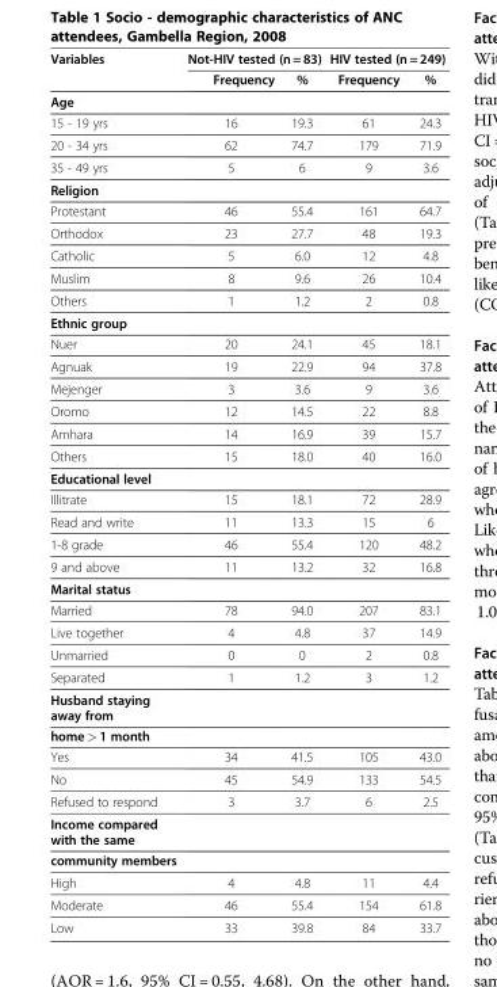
<table><thead><tr><td rowspan="2">Variables</td><td colspan="2">Not-HIV tested (n = 83)</td><td colspan="2">HIV tested (n = 249)</td></tr><tr><td>Frequency</td><td>%</td><td>Frequency</td><td>%</td></tr></thead><tbody><tr><td colspan="5">Age</td></tr><tr><td>15 - 19 yrs</td><td>16</td><td>19.3</td><td>61</td><td>24.3</td></tr><tr><td>20 - 34 yrs</td><td>62</td><td>74.7</td><td>179</td><td>71.9</td></tr><tr><td>35 - 49 yrs</td><td>5</td><td>6</td><td>9</td><td>3.6</td></tr><tr><td colspan="5">Religion</td></tr><tr><td>Protestant</td><td>46</td><td>55.4</td><td>161</td><td>64.7</td></tr><tr><td>Orthodox</td><td>23</td><td>27.7</td><td>48</td><td>19.3</td></tr><tr><td>Catholic</td><td>5</td><td>6.0</td><td>12</td><td>4.8</td></tr><tr><td>Muslim</td><td>8</td><td>9.6</td><td>26</td><td>10.4</td></tr><tr><td>Others</td><td>1</td><td>1.2</td><td>2</td><td>0.8</td></tr><tr><td colspan="5">Ethnic group</td></tr><tr><td>Nuer</td><td>20</td><td>24.1</td><td>45</td><td>18.1</td></tr><tr><td>Agnuak</td><td>19</td><td>22.9</td><td>94</td><td>37.8</td></tr><tr><td>Mejenger</td><td>3</td><td>3.6</td><td>9</td><td>3.6</td></tr><tr><td>Oromo</td><td>12</td><td>14.5</td><td>22</td><td>8.8</td></tr><tr><td>Amhara</td><td>14</td><td>16.9</td><td>39</td><td>15.7</td></tr><tr><td>Others</td><td>15</td><td>18.0</td><td>40</td><td>16.0</td></tr><tr><td colspan="5">Educational level</td></tr><tr><td>Illitrate</td><td>15</td><td>18.1</td><td>72</td><td>28.9</td></tr><tr><td>Read and write</td><td>11</td><td>13.3</td><td>15</td><td>6</td></tr><tr><td>1-8 grade</td><td>46</td><td>55.4</td><td>120</td><td>48.2</td></tr><tr><td>9 and above</td><td>11</td><td>13.2</td><td>32</td><td>16.8</td></tr><tr><td colspan="5">Marital status</td></tr><tr><td>Married</td><td>78</td><td>94.0</td><td>207</td><td>83.1</td></tr><tr><td>Live together</td><td>4</td><td>4.8</td><td>37</td><td>14.9</td></tr><tr><td>Unmarried</td><td>0</td><td>0</td><td>2</td><td>0.8</td></tr><tr><td>Separated</td><td>1</td><td>1.2</td><td>3</td><td>1.2</td></tr><tr><td colspan="5">Husband staying away from</td></tr><tr><td colspan="5">home &gt; 1 month</td></tr><tr><td>Yes</td><td>34</td><td>41.5</td><td>105</td><td>43.0</td></tr><tr><td>No</td><td>45</td><td>54.9</td><td>133</td><td>54.5</td></tr><tr><td>Refused to respond</td><td>3</td><td>3.7</td><td>6</td><td>2.5</td></tr><tr><td colspan="5">Income compared with the same</td></tr><tr><td colspan="5">community members</td></tr><tr><td>High</td><td>4</td><td>4.8</td><td>11</td><td>4.4</td></tr><tr><td>Moderate</td><td>46</td><td>55.4</td><td>154</td><td>61.8</td></tr><tr><td>Low</td><td>33</td><td>39.8</td><td>84</td><td>33.7</td></tr></tbody></table>